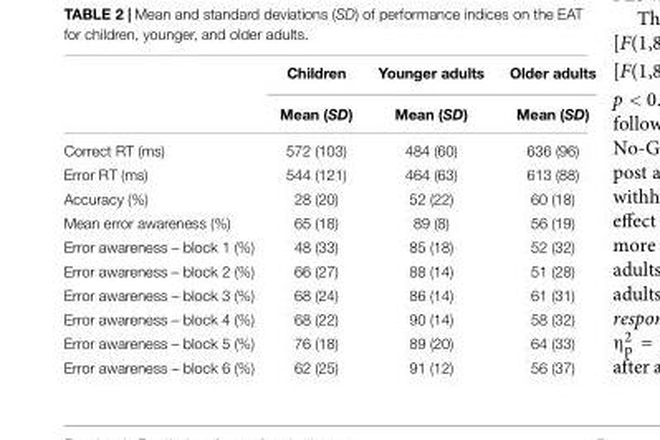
<table><thead><tr><td rowspan="2"></td><td rowspan="2">Children Mean (SD)</td><td rowspan="2">Younger adults Mean (SD)</td><td rowspan="2">Older adults Mean (SD)</td></tr><tr></tr></thead><tbody><tr><td>Correct RT (ms)</td><td>572 (103)</td><td>484 (60)</td><td>636 (96)</td></tr><tr><td>Error RT (ms)</td><td>544 (121)</td><td>464 (63)</td><td>613 (88)</td></tr><tr><td>Accuracy (%)</td><td>28 (20)</td><td>52 (22)</td><td>60 (18)</td></tr><tr><td>Mean error awareness (%)</td><td>65 (18)</td><td>89 (8)</td><td>56 (19)</td></tr><tr><td>Error awareness – block 1 (%)</td><td>48 (33)</td><td>85 (18)</td><td>52 (32)</td></tr><tr><td>Error awareness – block 2 (%)</td><td>66 (27)</td><td>88 (14)</td><td>51 (28)</td></tr><tr><td>Error awareness – block 3 (%)</td><td>68 (24)</td><td>86 (14)</td><td>61 (31)</td></tr><tr><td>Error awareness – block 4 (%)</td><td>68 (22)</td><td>90 (14)</td><td>58 (32)</td></tr><tr><td>Error awareness – block 5 (%)</td><td>76 (18)</td><td>89 (20)</td><td>64 (33)</td></tr><tr><td>Error awareness – block 6 (%)</td><td>62 (25)</td><td>91 (12)</td><td>56 (37)</td></tr></tbody></table>